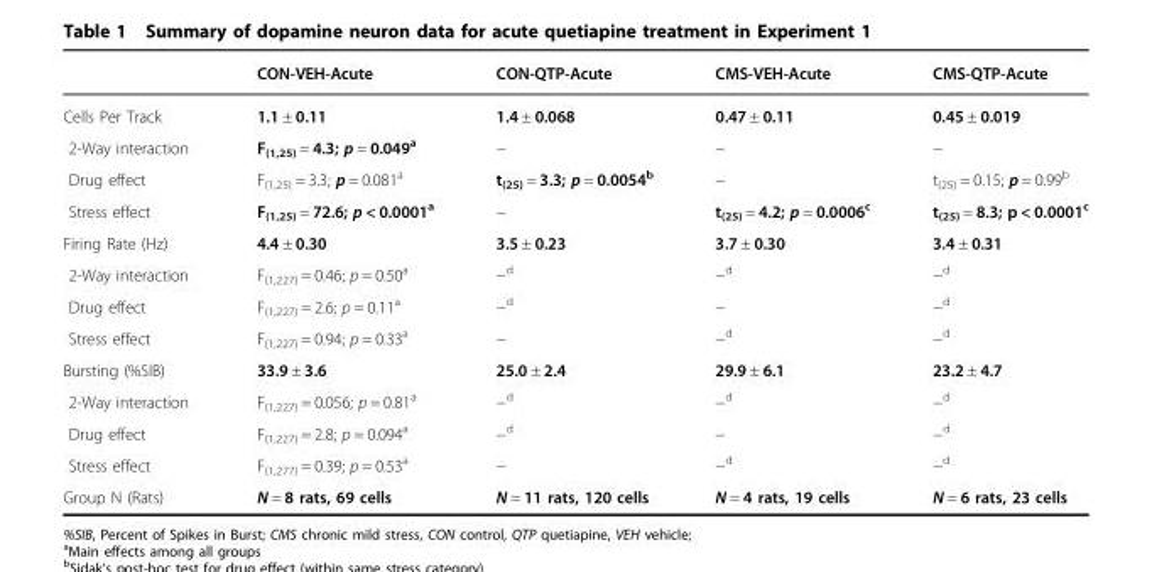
<table><thead><tr><td></td><td>CON-VEH-Acute</td><td>CON-QTP-Acute</td><td>CMS-VEH-Acute</td><td>CMS-QTP-Acute</td></tr></thead><tbody><tr><td>Cells Per Track</td><td>1.1 ± 0.11</td><td>1.4 ± 0.068</td><td>0.47 ± 0.11</td><td>0.45 ± 0.019</td></tr><tr><td>2-Way interaction</td><td>F<sub>(1,25)</sub> = 4.3; p = 0.049<sup>a</sup></td><td>−</td><td>−</td><td>−</td></tr><tr><td>Drug effect</td><td>F<sub>(1,25)</sub> = 3.3; p = 0.081<sup>a</sup></td><td>t<sub>(25)</sub> = 3.3; p = 0.0054<sup>b</sup></td><td>−</td><td>t<sub>(25)</sub> = 0.15; p = 0.99<sup>b</sup></td></tr><tr><td>Stress effect</td><td>F<sub>(1,25)</sub> = 72.6; p &lt; 0.0001<sup>a</sup></td><td>−</td><td>t<sub>(25)</sub> = 4.2; p = 0.0006<sup>c</sup></td><td>t<sub>(25)</sub> = 8.3; p &lt; 0.0001<sup>c</sup></td></tr><tr><td>Firing Rate (Hz)</td><td>4.4 ± 0.30</td><td>3.5 ± 0.23</td><td>3.7 ± 0.30</td><td>3.4 ± 0.31</td></tr><tr><td>2-Way interaction</td><td>F<sub>(1,227)</sub> = 0.46; p = 0.50<sup>a</sup></td><td>−<sup>d</sup></td><td>−<sup>d</sup></td><td>−<sup>d</sup></td></tr><tr><td>Drug effect</td><td>F<sub>(1,227)</sub> = 2.6; p = 0.11<sup>a</sup></td><td>−<sup>d</sup></td><td>−</td><td>−<sup>d</sup></td></tr><tr><td>Stress effect</td><td>F<sub>(1,227)</sub> = 0.94; p = 0.33<sup>a</sup></td><td>−</td><td>−<sup>d</sup></td><td>−<sup>d</sup></td></tr><tr><td>Bursting (%SIB)</td><td>33.9 ± 3.6</td><td>25.0 ± 2.4</td><td>29.9 ± 6.1</td><td>23.2 ± 4.7</td></tr><tr><td>2-Way interaction</td><td>F<sub>(1,227)</sub> = 0.056; p = 0.81<sup>a</sup></td><td>−<sup>d</sup></td><td>−<sup>d</sup></td><td>−<sup>d</sup></td></tr><tr><td>Drug effect</td><td>F<sub>(1,227)</sub> = 2.8; p = 0.094<sup>a</sup></td><td>−<sup>d</sup></td><td>−</td><td>−<sup>d</sup></td></tr><tr><td>Stress effect</td><td>F<sub>(1,277)</sub> = 0.39; p = 0.53<sup>a</sup></td><td>−</td><td>−<sup>d</sup></td><td>−<sup>d</sup></td></tr><tr><td>Group N (Rats)</td><td>N = 8 rats, 69 cells</td><td>N = 11 rats, 120 cells</td><td>N = 4 rats, 19 cells</td><td>N = 6 rats, 23 cells</td></tr></tbody></table>